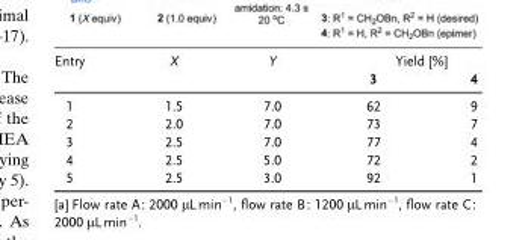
<table><thead><tr><td rowspan="2">Entry</td><td rowspan="2">X</td><td rowspan="2">Y</td><td rowspan="2">Yield [%] 3</td><td rowspan="2">4</td></tr><tr></tr></thead><tbody><tr><td>1</td><td>1.5</td><td>7.0</td><td>62</td><td>9</td></tr><tr><td>2</td><td>2.0</td><td>7.0</td><td>73</td><td>7</td></tr><tr><td>3</td><td>2.5</td><td>7.0</td><td>77</td><td>4</td></tr><tr><td>4</td><td>2.5</td><td>5.0</td><td>72</td><td>2</td></tr><tr><td>5</td><td>2.5</td><td>3.0</td><td>92</td><td>1</td></tr></tbody></table>